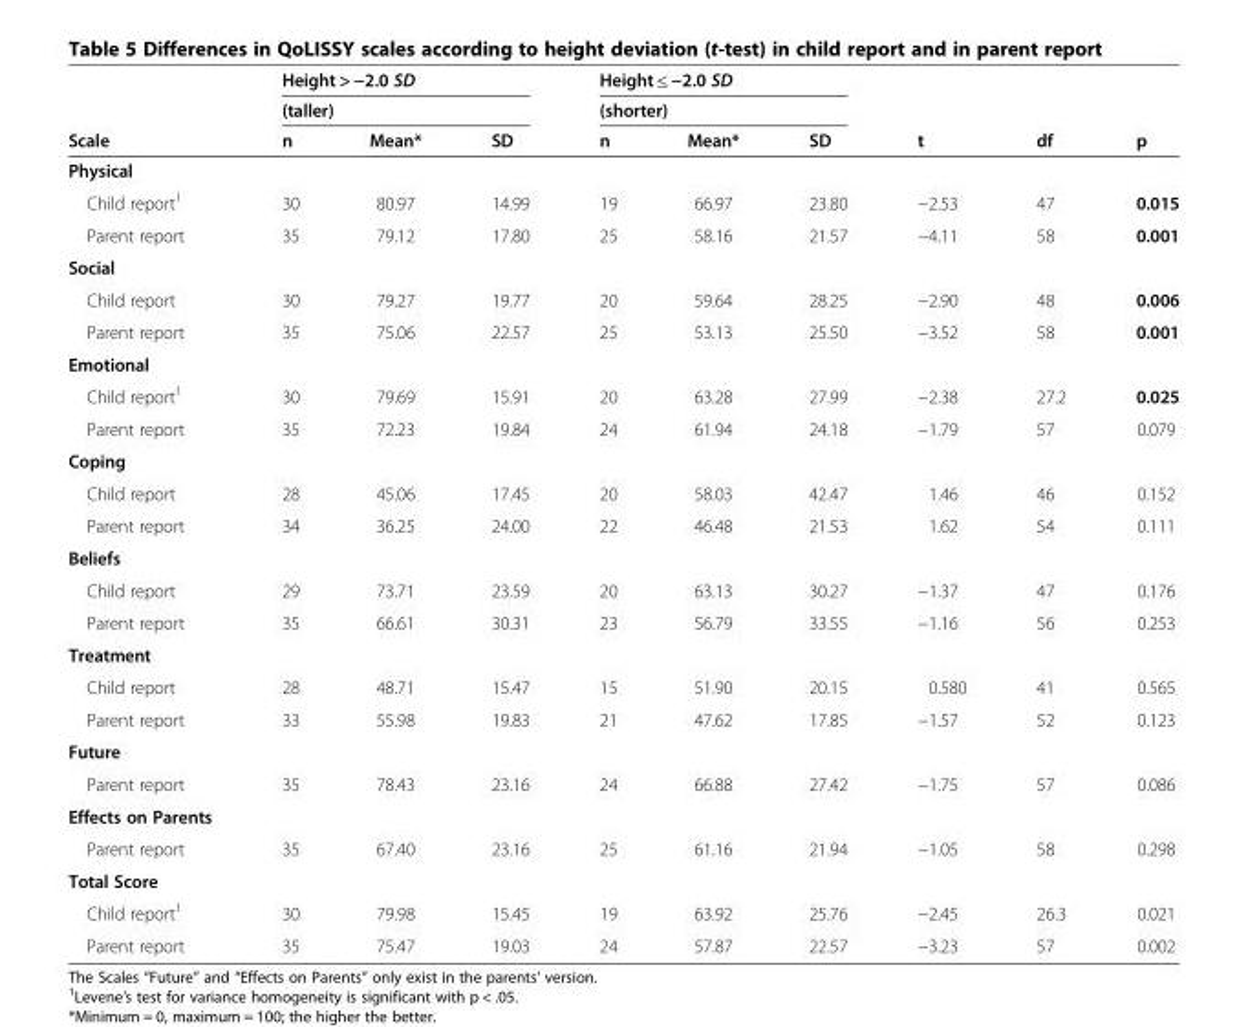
<table><thead><tr><td rowspan="3">Scale</td><td rowspan="2" colspan="3">Height &gt; −2.0 SD (taller)</td><td rowspan="2" colspan="3">Height ≤ −2.0 SD (shorter)</td><td rowspan="3">t</td><td rowspan="3">df</td><td rowspan="3">p</td></tr><tr></tr><tr><td>n</td><td>Mean*</td><td>SD</td><td>n</td><td>Mean*</td><td>SD</td></tr></thead><tbody><tr><td colspan="10">Physical</td></tr><tr><td>Child report<sup>1</sup></td><td>30</td><td>80.97</td><td>14.99</td><td>19</td><td>66.97</td><td>23.80</td><td>−2.53</td><td>47</td><td>0.015</td></tr><tr><td>Parent report</td><td>35</td><td>79.12</td><td>17.80</td><td>25</td><td>58.16</td><td>21.57</td><td>−4.11</td><td>58</td><td>0.001</td></tr><tr><td colspan="10">Social</td></tr><tr><td>Child report</td><td>30</td><td>79.27</td><td>19.77</td><td>20</td><td>59.64</td><td>28.25</td><td>−2.90</td><td>48</td><td>0.006</td></tr><tr><td>Parent report</td><td>35</td><td>75.06</td><td>22.57</td><td>25</td><td>53.13</td><td>25.50</td><td>−3.52</td><td>58</td><td>0.001</td></tr><tr><td colspan="10">Emotional</td></tr><tr><td>Child report<sup>1</sup></td><td>30</td><td>79.69</td><td>15.91</td><td>20</td><td>63.28</td><td>27.99</td><td>−2.38</td><td>27.2</td><td>0.025</td></tr><tr><td>Parent report</td><td>35</td><td>72.23</td><td>19.84</td><td>24</td><td>61.94</td><td>24.18</td><td>−1.79</td><td>57</td><td>0.079</td></tr><tr><td colspan="10">Coping</td></tr><tr><td>Child report</td><td>28</td><td>45.06</td><td>17.45</td><td>20</td><td>58.03</td><td>42.47</td><td>1.46</td><td>46</td><td>0.152</td></tr><tr><td>Parent report</td><td>34</td><td>36.25</td><td>24.00</td><td>22</td><td>46.48</td><td>21.53</td><td>1.62</td><td>54</td><td>0.111</td></tr><tr><td colspan="10">Beliefs</td></tr><tr><td>Child report</td><td>29</td><td>73.71</td><td>23.59</td><td>20</td><td>63.13</td><td>30.27</td><td>−1.37</td><td>47</td><td>0.176</td></tr><tr><td>Parent report</td><td>35</td><td>66.61</td><td>30.31</td><td>23</td><td>56.79</td><td>33.55</td><td>−1.16</td><td>56</td><td>0.253</td></tr><tr><td colspan="10">Treatment</td></tr><tr><td>Child report</td><td>28</td><td>48.71</td><td>15.47</td><td>15</td><td>51.90</td><td>20.15</td><td>0.580</td><td>41</td><td>0.565</td></tr><tr><td>Parent report</td><td>33</td><td>55.98</td><td>19.83</td><td>21</td><td>47.62</td><td>17.85</td><td>−1.57</td><td>52</td><td>0.123</td></tr><tr><td colspan="10">Future</td></tr><tr><td>Parent report</td><td>35</td><td>78.43</td><td>23.16</td><td>24</td><td>66.88</td><td>27.42</td><td>−1.75</td><td>57</td><td>0.086</td></tr><tr><td colspan="10">Effects on Parents</td></tr><tr><td>Parent report</td><td>35</td><td>67.40</td><td>23.16</td><td>25</td><td>61.16</td><td>21.94</td><td>−1.05</td><td>58</td><td>0.298</td></tr><tr><td colspan="10">Total Score</td></tr><tr><td>Child report<sup>1</sup></td><td>30</td><td>79.98</td><td>15.45</td><td>19</td><td>63.92</td><td>25.76</td><td>−2.45</td><td>26.3</td><td>0.021</td></tr><tr><td>Parent report</td><td>35</td><td>75.47</td><td>19.03</td><td>24</td><td>57.87</td><td>22.57</td><td>−3.23</td><td>57</td><td>0.002</td></tr></tbody></table>